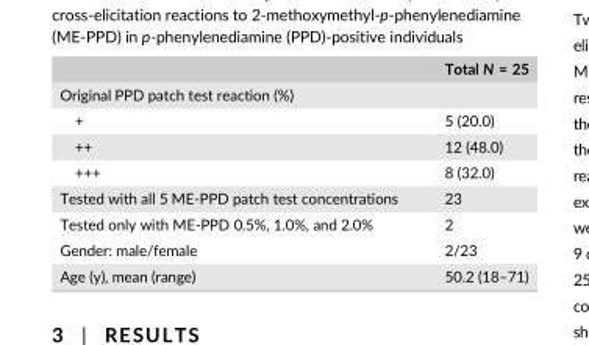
<table><thead><tr><td></td><td>Total N = 25</td></tr></thead><tbody><tr><td colspan="2">Original PPD patch test reaction (%)</td></tr><tr><td>+</td><td>5 (20.0)</td></tr><tr><td>++</td><td>12 (48.0)</td></tr><tr><td>+++</td><td>8 (32.0)</td></tr><tr><td>Tested with all 5 ME-PPD patch test concentrations</td><td>23</td></tr><tr><td>Tested only with ME-PPD 0.5%, 1.0%, and 2.0%</td><td>2</td></tr><tr><td>Gender: male/female</td><td>2/23</td></tr><tr><td>Age (y), mean (range)</td><td>50.2 (18–71)</td></tr></tbody></table>